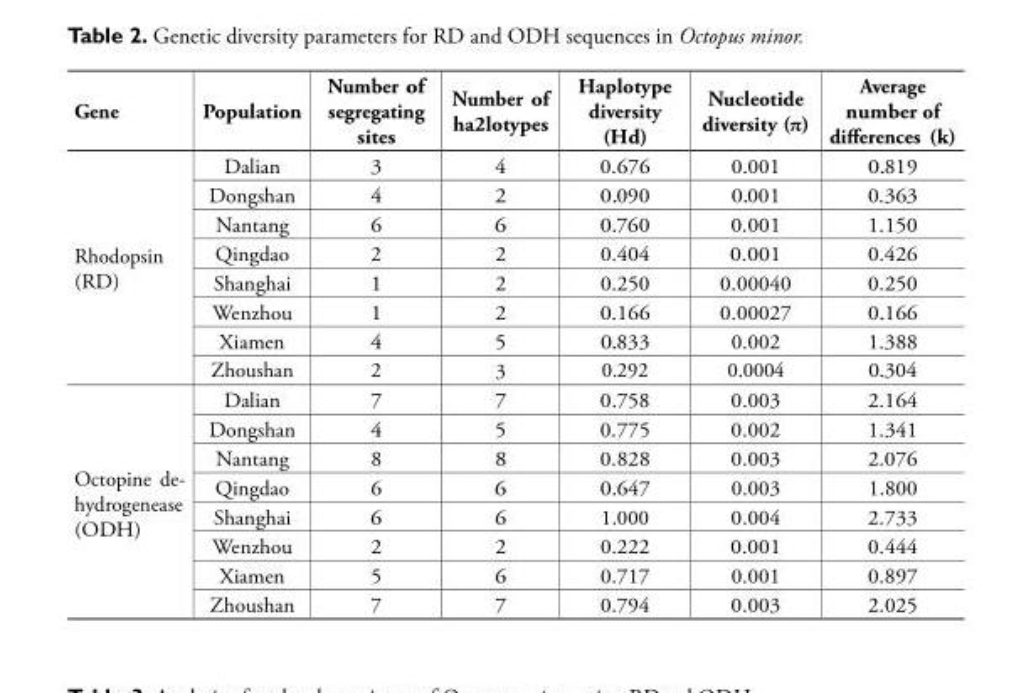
<table><thead><tr><td>Gene</td><td>Population</td><td>Number of segregating sites</td><td>Number of ha2lotypes</td><td>Haplotype diversity (Hd)</td><td>Nucleotide diversity (π)</td><td>Average number of differences (k)</td></tr></thead><tbody><tr><td rowspan="8">Rhodopsin (RD)</td><td>Dalian</td><td>3</td><td>4</td><td>0.676</td><td>0.001</td><td>0.819</td></tr><tr><td>Dongshan</td><td>4</td><td>2</td><td>0.090</td><td>0.001</td><td>0.363</td></tr><tr><td>Nantang</td><td>6</td><td>6</td><td>0.760</td><td>0.001</td><td>1.150</td></tr><tr><td>Qingdao</td><td>2</td><td>2</td><td>0.404</td><td>0.001</td><td>0.426</td></tr><tr><td>Shanghai</td><td>1</td><td>2</td><td>0.250</td><td>0.00040</td><td>0.250</td></tr><tr><td>Wenzhou</td><td>1</td><td>2</td><td>0.166</td><td>0.00027</td><td>0.166</td></tr><tr><td>Xiamen</td><td>4</td><td>5</td><td>0.833</td><td>0.002</td><td>1.388</td></tr><tr><td>Zhoushan</td><td>2</td><td>3</td><td>0.292</td><td>0.0004</td><td>0.304</td></tr><tr><td rowspan="8">Octopine de- hydrogenease (ODH)</td><td>Dalian</td><td>7</td><td>7</td><td>0.758</td><td>0.003</td><td>2.164</td></tr><tr><td>Dongshan</td><td>4</td><td>5</td><td>0.775</td><td>0.002</td><td>1.341</td></tr><tr><td>Nantang</td><td>8</td><td>8</td><td>0.828</td><td>0.003</td><td>2.076</td></tr><tr><td>Qingdao</td><td>6</td><td>6</td><td>0.647</td><td>0.003</td><td>1.800</td></tr><tr><td>Shanghai</td><td>6</td><td>6</td><td>1.000</td><td>0.004</td><td>2.733</td></tr><tr><td>Wenzhou</td><td>2</td><td>2</td><td>0.222</td><td>0.001</td><td>0.444</td></tr><tr><td>Xiamen</td><td>5</td><td>6</td><td>0.717</td><td>0.001</td><td>0.897</td></tr><tr><td>Zhoushan</td><td>7</td><td>7</td><td>0.794</td><td>0.003</td><td>2.025</td></tr></tbody></table>